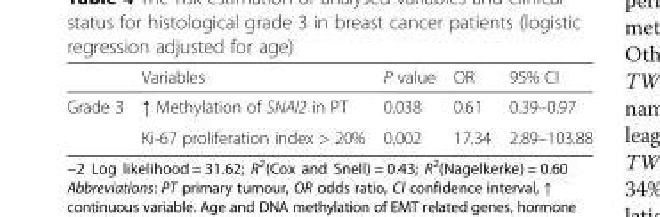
<table><thead><tr><td></td><td>Variables</td><td>P value</td><td>OR</td><td>95% CI</td></tr></thead><tbody><tr><td rowspan="2">Grade 3</td><td>↑ Methylation of SNAI2 in PT</td><td>0.038</td><td>0.61</td><td>0.39–0.97</td></tr><tr><td>Ki-67 proliferation index &gt; 20%</td><td>0.002</td><td>17.34</td><td>2.89–103.88</td></tr></tbody></table>